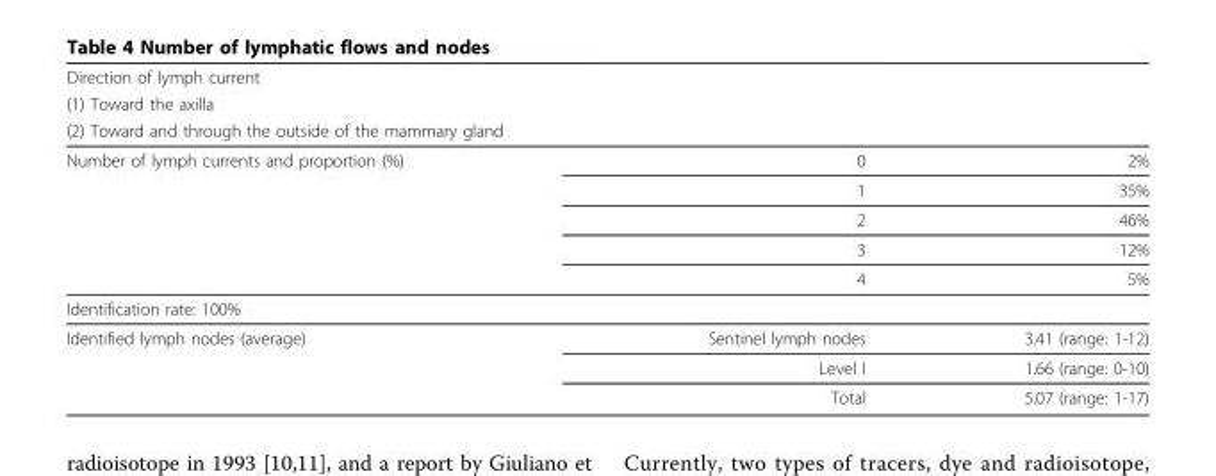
<table><thead><tr><td rowspan="3" colspan="3">Direction of lymph current (1) Toward the axilla (2) Toward and through the outside of the mammary gland</td></tr><tr></tr><tr></tr><tr><td>Number of lymph currents and proportion (%)</td><td>0</td><td>2%</td></tr></thead><tbody><tr><td></td><td>1</td><td>35%</td></tr><tr><td></td><td>2</td><td>46%</td></tr><tr><td></td><td>3</td><td>12%</td></tr><tr><td></td><td>4</td><td>5%</td></tr><tr><td colspan="3">Identification rate: 100%</td></tr><tr><td rowspan="3">Identified lymph nodes (average)</td><td>Sentinel lymph nodes</td><td>3.41 (range: 1-12)</td></tr><tr><td>Level I</td><td>1.66 (range: 0-10)</td></tr><tr><td>Total</td><td>5.07 (range: 1-17)</td></tr></tbody></table>